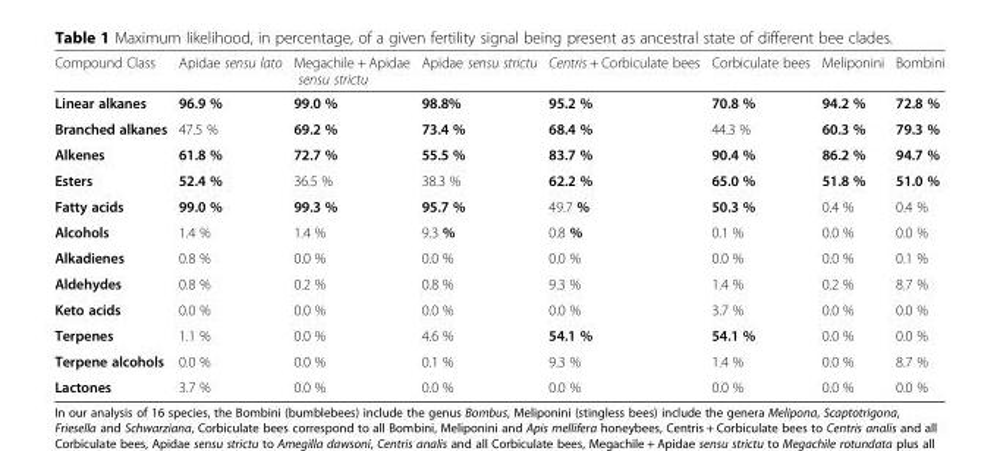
<table><thead><tr><td>Compound Class</td><td>Apidae sensu lato</td><td>Megachile + Apidae sensu strictu</td><td>Apidae sensu strictu</td><td>Centris + Corbiculate bees</td><td>Corbiculate bees</td><td>Meliponini</td><td>Bombini</td></tr></thead><tbody><tr><td>Linear alkanes</td><td>96.9 %</td><td>99.0 %</td><td>98.8%</td><td>95.2 %</td><td>70.8 %</td><td>94.2 %</td><td>72.8 %</td></tr><tr><td>Branched alkanes</td><td>47.5 %</td><td>69.2 %</td><td>73.4 %</td><td>68.4 %</td><td>44.3 %</td><td>60.3 %</td><td>79.3 %</td></tr><tr><td>Alkenes</td><td>61.8 %</td><td>72.7 %</td><td>55.5 %</td><td>83.7 %</td><td>90.4 %</td><td>86.2 %</td><td>94.7 %</td></tr><tr><td>Esters</td><td>52.4 %</td><td>36.5 %</td><td>38.3 %</td><td>62.2 %</td><td>65.0 %</td><td>51.8 %</td><td>51.0 %</td></tr><tr><td>Fatty acids</td><td>99.0 %</td><td>99.3 %</td><td>95.7 %</td><td>49.7 %</td><td>50.3 %</td><td>0.4 %</td><td>0.4 %</td></tr><tr><td>Alcohols</td><td>1.4 %</td><td>1.4 %</td><td>9.3 %</td><td>0.8 %</td><td>0.1 %</td><td>0.0 %</td><td>0.0 %</td></tr><tr><td>Alkadienes</td><td>0.8 %</td><td>0.0 %</td><td>0.0 %</td><td>0.0 %</td><td>0.0 %</td><td>0.0 %</td><td>0.1 %</td></tr><tr><td>Aldehydes</td><td>0.8 %</td><td>0.2 %</td><td>0.8 %</td><td>9.3 %</td><td>1.4 %</td><td>0.2 %</td><td>8.7 %</td></tr><tr><td>Keto acids</td><td>0.0 %</td><td>0.0 %</td><td>0.0 %</td><td>0.0 %</td><td>3.7 %</td><td>0.0 %</td><td>0.0 %</td></tr><tr><td>Terpenes</td><td>1.1 %</td><td>0.0 %</td><td>4.6 %</td><td>54.1 %</td><td>54.1 %</td><td>0.0 %</td><td>0.0 %</td></tr><tr><td>Terpene alcohols</td><td>0.0 %</td><td>0.0 %</td><td>0.1 %</td><td>9.3 %</td><td>1.4 %</td><td>0.0 %</td><td>8.7 %</td></tr><tr><td>Lactones</td><td>3.7 %</td><td>0.0 %</td><td>0.0 %</td><td>0.0 %</td><td>0.0 %</td><td>0.0 %</td><td>0.0 %</td></tr></tbody></table>